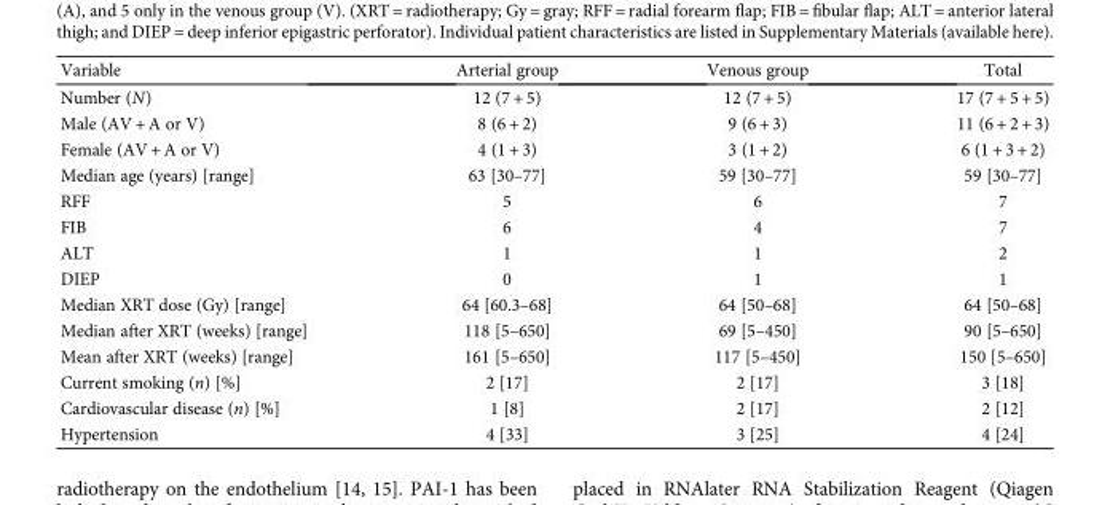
<table><thead><tr><td>Variable</td><td>Arterial group</td><td>Venous group</td><td>Total</td></tr></thead><tbody><tr><td>Number (N)</td><td>12 (7 + 5)</td><td>12 (7 + 5)</td><td>17 (7 + 5 + 5)</td></tr><tr><td>Male (AV + A or V)</td><td>8 (6 + 2)</td><td>9 (6 + 3)</td><td>11 (6 + 2 + 3)</td></tr><tr><td>Female (AV + A or V)</td><td>4 (1 + 3)</td><td>3 (1 + 2)</td><td>6 (1 + 3 + 2)</td></tr><tr><td>Median age (years) [range]</td><td>63 [30–77]</td><td>59 [30–77]</td><td>59 [30–77]</td></tr><tr><td>RFF</td><td>5</td><td>6</td><td>7</td></tr><tr><td>FIB</td><td>6</td><td>4</td><td>7</td></tr><tr><td>ALT</td><td>1</td><td>1</td><td>2</td></tr><tr><td>DIEP</td><td>0</td><td>1</td><td>1</td></tr><tr><td>Median XRT dose (Gy) [range]</td><td>64 [60.3–68]</td><td>64 [50–68]</td><td>64 [50–68]</td></tr><tr><td>Median after XRT (weeks) [range]</td><td>118 [5–650]</td><td>69 [5–450]</td><td>90 [5–650]</td></tr><tr><td>Mean after XRT (weeks) [range]</td><td>161 [5–650]</td><td>117 [5–450]</td><td>150 [5–650]</td></tr><tr><td>Current smoking (n) [%]</td><td>2 [17]</td><td>2 [17]</td><td>3 [18]</td></tr><tr><td>Cardiovascular disease (n) [%]</td><td>1 [8]</td><td>2 [17]</td><td>2 [12]</td></tr><tr><td>Hypertension</td><td>4 [33]</td><td>3 [25]</td><td>4 [24]</td></tr></tbody></table>